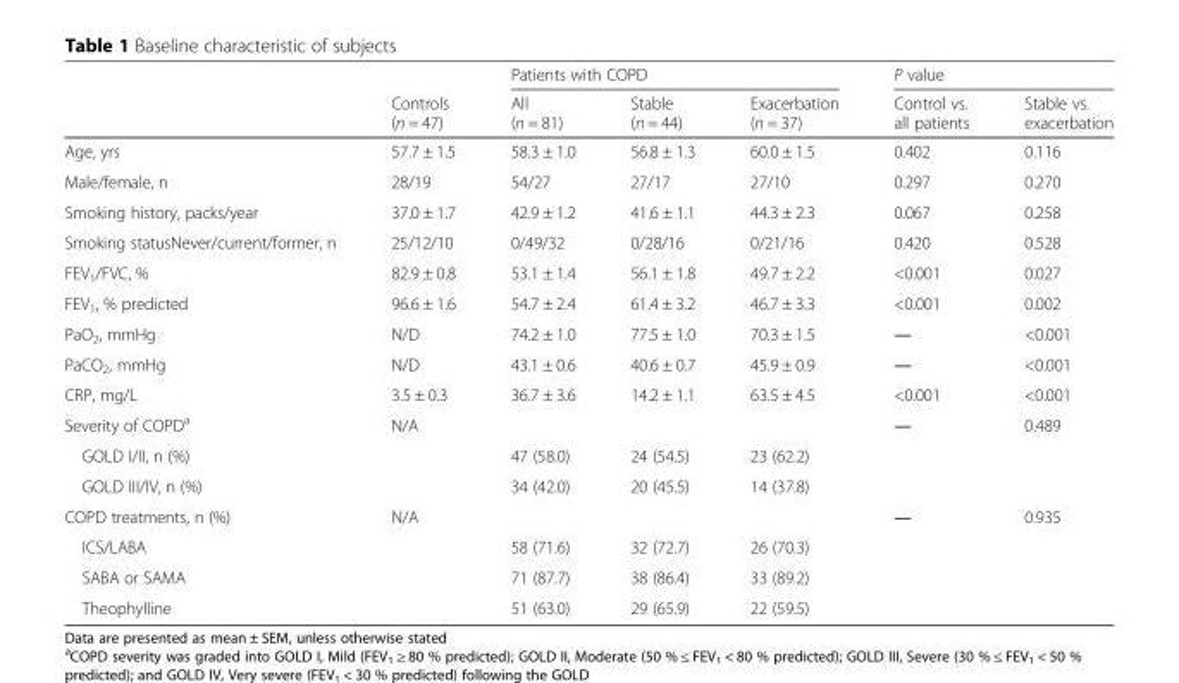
<table><thead><tr><td rowspan="2"></td><td rowspan="2">Controls (n = 47)</td><td colspan="3">Patients with COPD</td><td colspan="2">P value</td></tr><tr><td>All (n = 81)</td><td>Stable (n = 44)</td><td>Exacerbation (n = 37)</td><td>Control vs. all patients</td><td>Stable vs. exacerbation</td></tr></thead><tbody><tr><td>Age, yrs</td><td>57.7 ± 1.5</td><td>58.3 ± 1.0</td><td>56.8 ± 1.3</td><td>60.0 ± 1.5</td><td>0.402</td><td>0.116</td></tr><tr><td>Male/female, n</td><td>28/19</td><td>54/27</td><td>27/17</td><td>27/10</td><td>0.297</td><td>0.270</td></tr><tr><td>Smoking history, packs/year</td><td>37.0 ± 1.7</td><td>42.9 ± 1.2</td><td>41.6 ± 1.1</td><td>44.3 ± 2.3</td><td>0.067</td><td>0.258</td></tr><tr><td>Smoking statusNever/current/former, n</td><td>25/12/10</td><td>0/49/32</td><td>0/28/16</td><td>0/21/16</td><td>0.420</td><td>0.528</td></tr><tr><td>FEV<sub>1</sub>/FVC, %</td><td>82.9 ± 0.8</td><td>53.1 ± 1.4</td><td>56.1 ± 1.8</td><td>49.7 ± 2.2</td><td>&lt;0.001</td><td>0.027</td></tr><tr><td>FEV<sub>1</sub>, % predicted</td><td>96.6 ± 1.6</td><td>54.7 ± 2.4</td><td>61.4 ± 3.2</td><td>46.7 ± 3.3</td><td>&lt;0.001</td><td>0.002</td></tr><tr><td>PaO<sub>2</sub>, mmHg</td><td>N/D</td><td>74.2 ± 1.0</td><td>77.5 ± 1.0</td><td>70.3 ± 1.5</td><td>―</td><td>&lt;0.001</td></tr><tr><td>PaCO<sub>2</sub>, mmHg</td><td>N/D</td><td>43.1 ± 0.6</td><td>40.6 ± 0.7</td><td>45.9 ± 0.9</td><td>―</td><td>&lt;0.001</td></tr><tr><td>CRP, mg/L</td><td>3.5 ± 0.3</td><td>36.7 ± 3.6</td><td>14.2 ± 1.1</td><td>63.5 ± 4.5</td><td>&lt;0.001</td><td>&lt;0.001</td></tr><tr><td>Severity of COPD<sup>a</sup></td><td>N/A</td><td></td><td></td><td></td><td>―</td><td>0.489</td></tr><tr><td>GOLD I/II, n (%)</td><td></td><td>47 (58.0)</td><td>24 (54.5)</td><td>23 (62.2)</td><td colspan="2"></td></tr><tr><td>GOLD III/IV, n (%)</td><td></td><td>34 (42.0)</td><td>20 (45.5)</td><td>14 (37.8)</td><td></td><td></td></tr><tr><td>COPD treatments, n (%)</td><td>N/A</td><td></td><td></td><td></td><td>―</td><td>0.935</td></tr><tr><td>ICS/LABA</td><td></td><td>58 (71.6)</td><td>32 (72.7)</td><td>26 (70.3)</td><td></td><td></td></tr><tr><td>SABA or SAMA</td><td></td><td>71 (87.7)</td><td>38 (86.4)</td><td>33 (89.2)</td><td></td><td></td></tr><tr><td>Theophylline</td><td></td><td>51 (63.0)</td><td>29 (65.9)</td><td>22 (59.5)</td><td></td><td></td></tr></tbody></table>